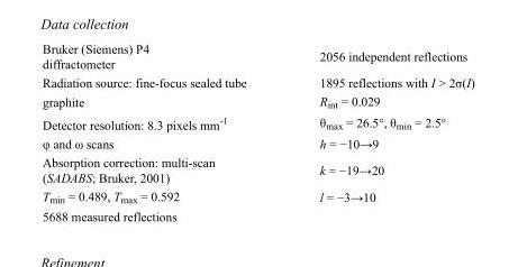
<table><tbody><tr><td>Bruker (Siemens) P4 diffractometer</td><td>2056 independent reflections</td></tr><tr><td>Radiation source: fine-focus sealed tube</td><td>1895 reflections with I &gt; 2σ(I)</td></tr><tr><td>graphite</td><td>R<sub>int</sub> = 0.029</td></tr><tr><td>Detector resolution: 8.3 pixels mm<sup>-1</sup></td><td>θ<sub>max</sub> = 26.5°, θ<sub>min</sub> = 2.5°</td></tr><tr><td>φ and ω scans</td><td>h = −10→9</td></tr><tr><td>Absorption correction: multi-scan (SADABS; Bruker, 2001)</td><td>k = −19→20</td></tr><tr><td>T<sub>min</sub> = 0.489, T<sub>max</sub> = 0.592</td><td>l = −3→10</td></tr><tr><td>5688 measured reflections</td><td></td></tr></tbody></table>